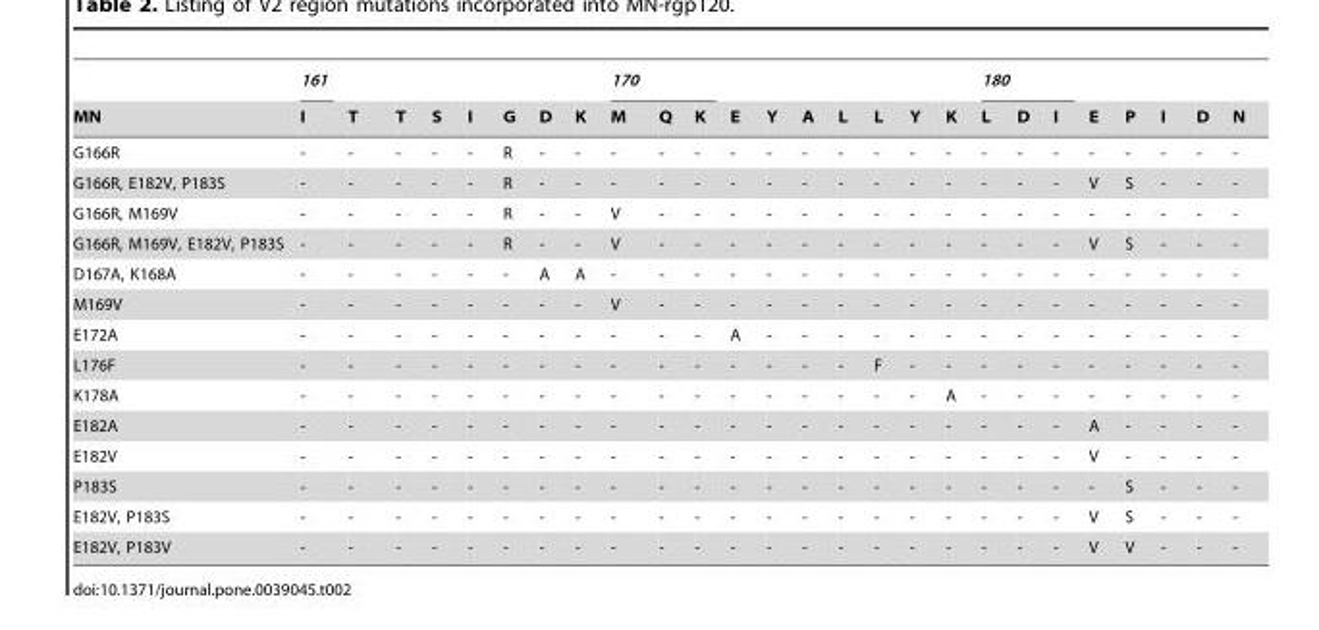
<table><thead><tr><td rowspan="2">MN</td><td rowspan="2">161 I</td><td rowspan="2">T</td><td rowspan="2">T</td><td rowspan="2">S</td><td rowspan="2">I</td><td rowspan="2">G</td><td rowspan="2">D</td><td rowspan="2">K</td><td colspan="3">170</td><td rowspan="2">E</td><td rowspan="2">Y</td><td rowspan="2">A</td><td rowspan="2">L</td><td rowspan="2">L</td><td rowspan="2">Y</td><td rowspan="2">K</td><td colspan="3">180</td><td rowspan="2">E</td><td rowspan="2">P</td><td rowspan="2">I</td><td rowspan="2">D</td><td rowspan="2">N</td></tr><tr><td>M</td><td>Q</td><td>K</td><td>L</td><td>D</td><td>I</td></tr></thead><tbody><tr><td>G166R</td><td>-</td><td>-</td><td>-</td><td>-</td><td>-</td><td>R</td><td>-</td><td>-</td><td>-</td><td>-</td><td>-</td><td>-</td><td>-</td><td>-</td><td>-</td><td>-</td><td>-</td><td>-</td><td>-</td><td>-</td><td>-</td><td>-</td><td>-</td><td>-</td><td>-</td><td>-</td></tr><tr><td>G166R, E182V, P183S</td><td>-</td><td>-</td><td>-</td><td>-</td><td>-</td><td>R</td><td>-</td><td>-</td><td>-</td><td>-</td><td>-</td><td>-</td><td>-</td><td>-</td><td>-</td><td>-</td><td>-</td><td>-</td><td>-</td><td>-</td><td>-</td><td>V</td><td>S</td><td>-</td><td>-</td><td>-</td></tr><tr><td>G166R, M169V</td><td>-</td><td>-</td><td>-</td><td>-</td><td>-</td><td>R</td><td>-</td><td>-</td><td>V</td><td>-</td><td>-</td><td>-</td><td>-</td><td>-</td><td>-</td><td>-</td><td>-</td><td>-</td><td>-</td><td>-</td><td>-</td><td>-</td><td>-</td><td>-</td><td>-</td><td>-</td></tr><tr><td>G166R, M169V, E182V, P183S</td><td>-</td><td>-</td><td>-</td><td>-</td><td>-</td><td>R</td><td>-</td><td>-</td><td>V</td><td>-</td><td>-</td><td>-</td><td>-</td><td>-</td><td>-</td><td>-</td><td>-</td><td>-</td><td>-</td><td>-</td><td>-</td><td>V</td><td>S</td><td>-</td><td>-</td><td>-</td></tr><tr><td>D167A, K168A</td><td>-</td><td>-</td><td>-</td><td>-</td><td>-</td><td>-</td><td>A</td><td>A</td><td>-</td><td>-</td><td>-</td><td>-</td><td>-</td><td>-</td><td>-</td><td>-</td><td>-</td><td>-</td><td>-</td><td>-</td><td>-</td><td>-</td><td>-</td><td>-</td><td>-</td><td>-</td></tr><tr><td>M169V</td><td>-</td><td>-</td><td>-</td><td>-</td><td>-</td><td>-</td><td>-</td><td>-</td><td>V</td><td>-</td><td>-</td><td>-</td><td>-</td><td>-</td><td>-</td><td>-</td><td>-</td><td>-</td><td>-</td><td>-</td><td>-</td><td>-</td><td>-</td><td>-</td><td>-</td><td>-</td></tr><tr><td>E172A</td><td>-</td><td>-</td><td>-</td><td>-</td><td>-</td><td>-</td><td>-</td><td>-</td><td>-</td><td>-</td><td>-</td><td>A</td><td>-</td><td>-</td><td>-</td><td>-</td><td>-</td><td>-</td><td>-</td><td>-</td><td>-</td><td>-</td><td>-</td><td>-</td><td>-</td><td>-</td></tr><tr><td>L176F</td><td>-</td><td>-</td><td>-</td><td>-</td><td>-</td><td>-</td><td>-</td><td>-</td><td>-</td><td>-</td><td>-</td><td>-</td><td>-</td><td>-</td><td>-</td><td>F</td><td>-</td><td>-</td><td>-</td><td>-</td><td>-</td><td>-</td><td>-</td><td>-</td><td>-</td><td>-</td></tr><tr><td>K178A</td><td>-</td><td>-</td><td>-</td><td>-</td><td>-</td><td>-</td><td>-</td><td>-</td><td>-</td><td>-</td><td>-</td><td>-</td><td>-</td><td>-</td><td>-</td><td>-</td><td>-</td><td>A</td><td>-</td><td>-</td><td>-</td><td>-</td><td>-</td><td>-</td><td>-</td><td>-</td></tr><tr><td>E182A</td><td>-</td><td>-</td><td>-</td><td>-</td><td>-</td><td>-</td><td>-</td><td>-</td><td>-</td><td>-</td><td>-</td><td>-</td><td>-</td><td>-</td><td>-</td><td>-</td><td>-</td><td>-</td><td>-</td><td>-</td><td>-</td><td>A</td><td>-</td><td>-</td><td>-</td><td>-</td></tr><tr><td>E182V</td><td>-</td><td>-</td><td>-</td><td>-</td><td>-</td><td>-</td><td>-</td><td>-</td><td>-</td><td>-</td><td>-</td><td>-</td><td>-</td><td>-</td><td>-</td><td>-</td><td>-</td><td>-</td><td>-</td><td>-</td><td>-</td><td>V</td><td>-</td><td>-</td><td>-</td><td>-</td></tr><tr><td>P183S</td><td>-</td><td>-</td><td>-</td><td>-</td><td>-</td><td>-</td><td>-</td><td>-</td><td>-</td><td>-</td><td>-</td><td>-</td><td>-</td><td>-</td><td>-</td><td>-</td><td>-</td><td>-</td><td>-</td><td>-</td><td>-</td><td>-</td><td>S</td><td>-</td><td>-</td><td>-</td></tr><tr><td>E182V, P183S</td><td>-</td><td>-</td><td>-</td><td>-</td><td>-</td><td>-</td><td>-</td><td>-</td><td>-</td><td>-</td><td>-</td><td>-</td><td>-</td><td>-</td><td>-</td><td>-</td><td>-</td><td>-</td><td>-</td><td>-</td><td>-</td><td>V</td><td>S</td><td>-</td><td>-</td><td>-</td></tr><tr><td>E182V, P183V</td><td>-</td><td>-</td><td>-</td><td>-</td><td>-</td><td>-</td><td>-</td><td>-</td><td>-</td><td>-</td><td>-</td><td>-</td><td>-</td><td>-</td><td>-</td><td>-</td><td>-</td><td>-</td><td>-</td><td>-</td><td>-</td><td>V</td><td>V</td><td>-</td><td>-</td><td>-</td></tr></tbody></table>